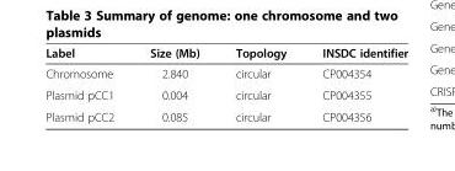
<table><thead><tr><td>Label</td><td>Size (Mb)</td><td>Topology</td><td>INSDC identifier</td></tr></thead><tbody><tr><td>Chromosome</td><td>2.840</td><td>circular</td><td>CP004354</td></tr><tr><td>Plasmid pCC1</td><td>0.004</td><td>circular</td><td>CP004355</td></tr><tr><td>Plasmid pCC2</td><td>0.085</td><td>circular</td><td>CP004356</td></tr></tbody></table>